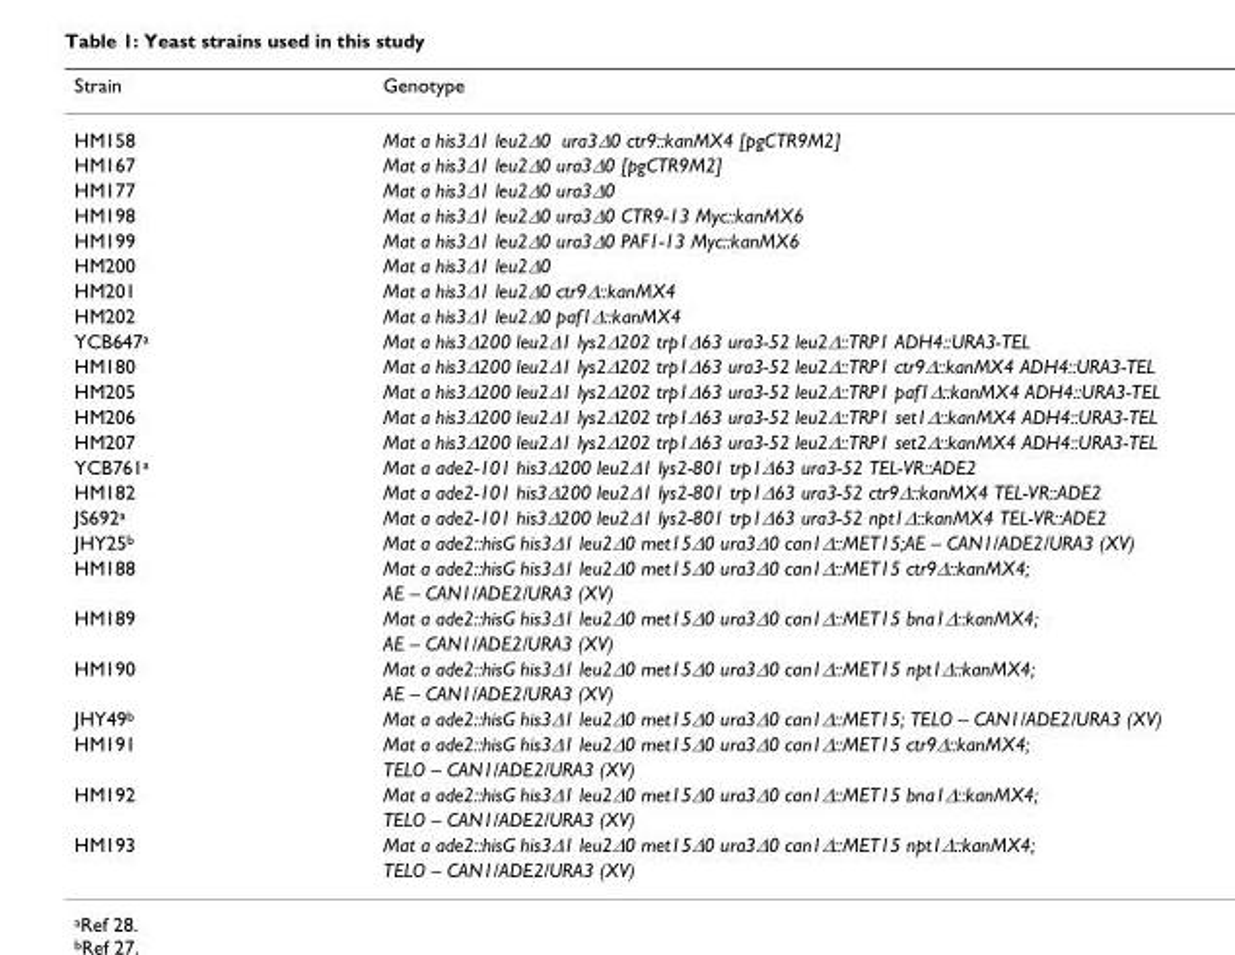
<table><thead><tr><td>Strain</td><td>Genotype</td></tr></thead><tbody><tr><td>HM158</td><td>Mat a his3Δ1 leu2Δ0 ura3Δ0 ctr9::kanMX4 [pgCTR9M2]</td></tr><tr><td>HM167</td><td>Mat a his3Δ1 leu2Δ0 ura3Δ0 [pgCTR9M2]</td></tr><tr><td>HM177</td><td>Mat a his3Δ1 leu2Δ0 ura3Δ0</td></tr><tr><td>HM198</td><td>Mat a his3Δ1 leu2Δ0 ura3Δ0 CTR9-13 Myc::kanMX6</td></tr><tr><td>HM199</td><td>Mat a his3Δ1 leu2Δ0 ura3Δ0 PAF1-13 Myc::kanMX6</td></tr><tr><td>HM200</td><td>Mat a his3Δ1 leu2Δ0</td></tr><tr><td>HM201</td><td>Mat a his3Δ1 leu2Δ0 ctr9Δ::kanMX4</td></tr><tr><td>HM202</td><td>Mat a his3Δ1 leu2Δ0 paf1Δ::kanMX4</td></tr><tr><td>YCB647<sup>a</sup></td><td>Mat a his3Δ200 leu2Δ1 lys2Δ202 trp1Δ63 ura3-52 leu2Δ::TRP1 ADH4::URA3-TEL</td></tr><tr><td>HM180</td><td>Mat a his3Δ200 leu2Δ1 lys2Δ202 trp1Δ63 ura3-52 leu2Δ::TRP1 ctr9Δ::kanMX4 ADH4::URA3-TEL</td></tr><tr><td>HM205</td><td>Mat a his3Δ200 leu2Δ1 lys2Δ202 trp1Δ63 ura3-52 leu2Δ::TRP1 paf1Δ::kanMX4 ADH4::URA3-TEL</td></tr><tr><td>HM206</td><td>Mat a his3Δ200 leu2Δ1 lys2Δ202 trp1Δ63 ura3-52 leu2Δ::TRP1 set1Δ::kanMX4 ADH4::URA3-TEL</td></tr><tr><td>HM207</td><td>Mat a his3Δ200 leu2Δ1 lys2Δ202 trp1Δ63 ura3-52 leu2Δ::TRP1 set2Δ::kanMX4 ADH4::URA3-TEL</td></tr><tr><td>YCB761<sup>a</sup></td><td>Mat a ade2-101 his3Δ200 leu2Δ1 lys2-801 trp1Δ63 ura3-52 TEL-VR::ADE2</td></tr><tr><td>HM182</td><td>Mat a ade2-101 his3Δ200 leu2Δ1 lys2-801 trp1Δ63 ura3-52 ctr9Δ::kanMX4 TEL-VR::ADE2</td></tr><tr><td>JS692<sup>a</sup></td><td>Mat a ade2-101 his3Δ200 leu2Δ1 lys2-801 trp1Δ63 ura3-52 npt1Δ::kanMX4 TEL-VR::ADE2</td></tr><tr><td>JHY25<sup>b</sup></td><td>Mat a ade2::hisG his3Δ1 leu2Δ0 met15Δ0 ura3Δ0 can1Δ::MET15;AE – CAN1/ADE2/URA3 (XV)</td></tr><tr><td rowspan="2">HM188</td><td>Mat a ade2::hisG his3Δ1 leu2Δ0 met15Δ0 ura3Δ0 can1Δ::MET15 ctr9Δ::kanMX4;</td></tr><tr><td>AE – CAN1/ADE2/URA3 (XV)</td></tr><tr><td rowspan="2">HM189</td><td>Mat a ade2::hisG his3Δ1 leu2Δ0 met15Δ0 ura3Δ0 can1Δ::MET15 bna1Δ::kanMX4;</td></tr><tr><td>AE – CAN1/ADE2/URA3 (XV)</td></tr><tr><td rowspan="2">HM190</td><td>Mat a ade2::hisG his3Δ1 leu2Δ0 met15Δ0 ura3Δ0 can1Δ::MET15 npt1Δ::kanMX4;</td></tr><tr><td>AE – CAN1/ADE2/URA3 (XV)</td></tr><tr><td>JHY49<sup>b</sup></td><td>Mat a ade2::hisG his3Δ1 leu2Δ0 met15Δ0 ura3Δ0 can1Δ::MET15; TELO – CAN1/ADE2/URA3 (XV)</td></tr><tr><td rowspan="2">HM191</td><td>Mat a ade2::hisG his3Δ1 leu2Δ0 met15Δ0 ura3Δ0 can1Δ::MET15 ctr9Δ::kanMX4;</td></tr><tr><td>TELO – CAN1/ADE2/URA3 (XV)</td></tr><tr><td rowspan="2">HM192</td><td>Mat a ade2::hisG his3Δ1 leu2Δ0 met15Δ0 ura3Δ0 can1Δ::MET15 bna1Δ::kanMX4;</td></tr><tr><td>TELO – CAN1/ADE2/URA3 (XV)</td></tr><tr><td rowspan="2">HM193</td><td>Mat a ade2::hisG his3Δ1 leu2Δ0 met15Δ0 ura3Δ0 can1Δ::MET15 npt1Δ::kanMX4;</td></tr><tr><td>TELO – CAN1/ADE2/URA3 (XV)</td></tr></tbody></table>